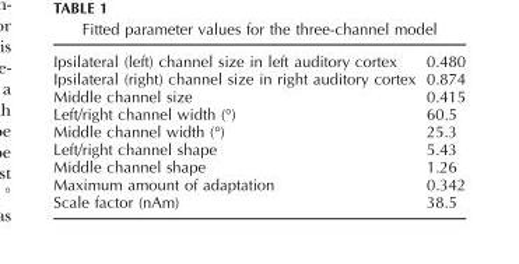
<table><tbody><tr><td>Ipsilateral (left) channel size in left auditory cortex</td><td>0.480</td></tr><tr><td>Ipsilateral (right) channel size in right auditory cortex</td><td>0.874</td></tr><tr><td>Middle channel size</td><td>0.415</td></tr><tr><td>Left/right channel width (°)</td><td>60.5</td></tr><tr><td>Middle channel width (°)</td><td>25.3</td></tr><tr><td>Left/right channel shape</td><td>5.43</td></tr><tr><td>Middle channel shape</td><td>1.26</td></tr><tr><td>Maximum amount of adaptation</td><td>0.342</td></tr><tr><td>Scale factor (nAm)</td><td>38.5</td></tr></tbody></table>